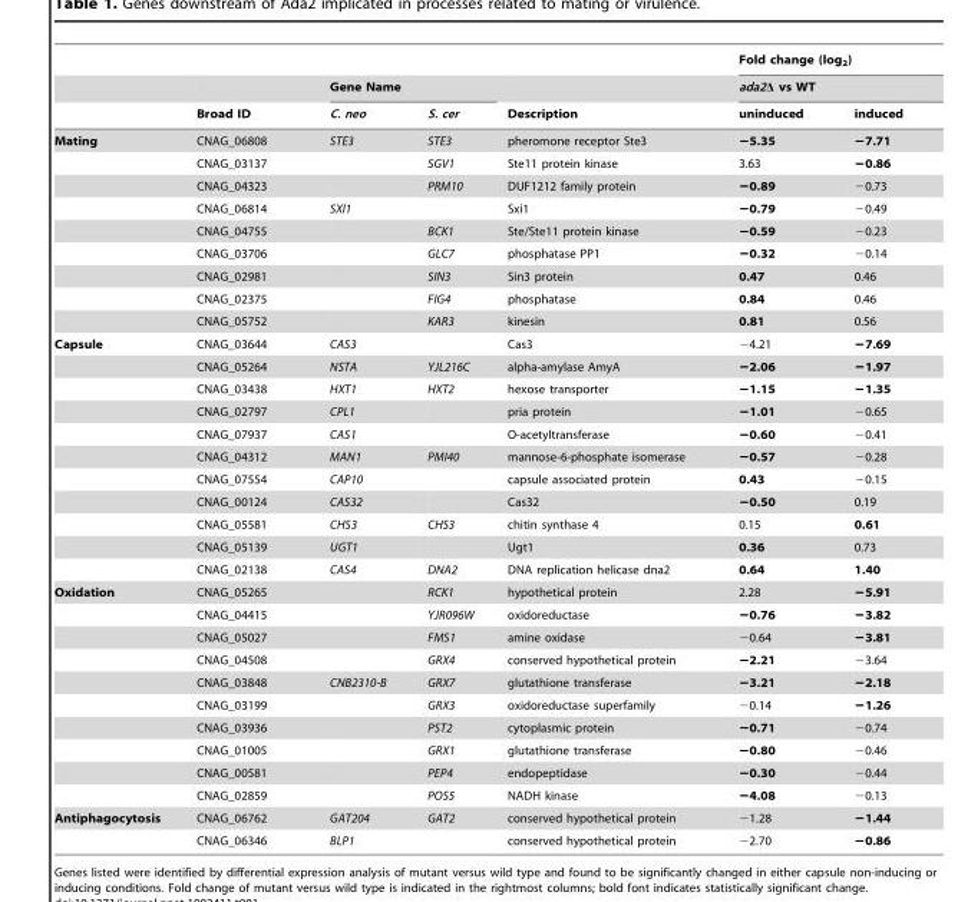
<table><thead><tr><td rowspan="3"></td><td rowspan="3">Broad ID</td><td></td><td></td><td rowspan="3">Description</td><td rowspan="2" colspan="2">Fold change (log<sub>2</sub>) ada2Δ vs WT</td></tr><tr><td colspan="2">Gene Name</td></tr><tr><td>C. neo</td><td>S. cer</td><td>uninduced</td><td>induced</td></tr></thead><tbody><tr><td rowspan="9">Mating</td><td>CNAG_06808</td><td>STE3</td><td>STE3</td><td>pheromone receptor Ste3</td><td>−5.35</td><td>−7.71</td></tr><tr><td>CNAG_03137</td><td></td><td>SGV1</td><td>Ste11 protein kinase</td><td>3.63</td><td>−0.86</td></tr><tr><td>CNAG_04323</td><td></td><td>PRM10</td><td>DUF1212 family protein</td><td>−0.89</td><td>−0.73</td></tr><tr><td>CNAG_06814</td><td>SXI1</td><td></td><td>Sxi1</td><td>−0.79</td><td>−0.49</td></tr><tr><td>CNAG_04755</td><td></td><td>BCK1</td><td>Ste/Ste11 protein kinase</td><td>−0.59</td><td>−0.23</td></tr><tr><td>CNAG_03706</td><td></td><td>GLC7</td><td>phosphatase PP1</td><td>−0.32</td><td>−0.14</td></tr><tr><td>CNAG_02981</td><td></td><td>SIN3</td><td>Sin3 protein</td><td>0.47</td><td>0.46</td></tr><tr><td>CNAG_02375</td><td></td><td>FIG4</td><td>phosphatase</td><td>0.84</td><td>0.46</td></tr><tr><td>CNAG_05752</td><td></td><td>KAR3</td><td>kinesin</td><td>0.81</td><td>0.56</td></tr><tr><td rowspan="11">Capsule</td><td>CNAG_03644</td><td>CAS3</td><td></td><td>Cas3</td><td>−4.21</td><td>−7.69</td></tr><tr><td>CNAG_05264</td><td>NSTA</td><td>YJL216C</td><td>alpha-amylase AmyA</td><td>−2.06</td><td>−1.97</td></tr><tr><td>CNAG_03438</td><td>HXT1</td><td>HXT2</td><td>hexose transporter</td><td>−1.15</td><td>−1.35</td></tr><tr><td>CNAG_02797</td><td>CPL1</td><td></td><td>pria protein</td><td>−1.01</td><td>−0.65</td></tr><tr><td>CNAG_07937</td><td>CAS1</td><td></td><td>O-acetyltransferase</td><td>−0.60</td><td>−0.41</td></tr><tr><td>CNAG_04312</td><td>MAN1</td><td>PMI40</td><td>mannose-6-phosphate isomerase</td><td>−0.57</td><td>−0.28</td></tr><tr><td>CNAG_07554</td><td>CAP10</td><td></td><td>capsule associated protein</td><td>0.43</td><td>−0.15</td></tr><tr><td>CNAG_00124</td><td>CAS32</td><td></td><td>Cas32</td><td>−0.50</td><td>0.19</td></tr><tr><td>CNAG_05581</td><td>CHS3</td><td>CHS3</td><td>chitin synthase 4</td><td>0.15</td><td>0.61</td></tr><tr><td>CNAG_05139</td><td>UGT1</td><td></td><td>Ugt1</td><td>0.36</td><td>0.73</td></tr><tr><td>CNAG_02138</td><td>CAS4</td><td>DNA2</td><td>DNA replication helicase dna2</td><td>0.64</td><td>1.40</td></tr><tr><td rowspan="10">Oxidation</td><td>CNAG_05265</td><td></td><td>RCK1</td><td>hypothetical protein</td><td>2.28</td><td>−5.91</td></tr><tr><td>CNAG_04415</td><td></td><td>YJR096W</td><td>oxidoreductase</td><td>−0.76</td><td>−3.82</td></tr><tr><td>CNAG_05027</td><td></td><td>FMS1</td><td>amine oxidase</td><td>−0.64</td><td>−3.81</td></tr><tr><td>CNAG_04508</td><td></td><td>GRX4</td><td>conserved hypothetical protein</td><td>−2.21</td><td>−3.64</td></tr><tr><td>CNAG_03848</td><td>CNB2310-B</td><td>GRX7</td><td>glutathione transferase</td><td>−3.21</td><td>−2.18</td></tr><tr><td>CNAG_03199</td><td></td><td>GRX3</td><td>oxidoreductase superfamily</td><td>−0.14</td><td>−1.26</td></tr><tr><td>CNAG_03936</td><td></td><td>PST2</td><td>cytoplasmic protein</td><td>−0.71</td><td>−0.74</td></tr><tr><td>CNAG_01005</td><td></td><td>GRX1</td><td>glutathione transferase</td><td>−0.80</td><td>−0.46</td></tr><tr><td>CNAG_00581</td><td></td><td>PEP4</td><td>endopeptidase</td><td>−0.30</td><td>−0.44</td></tr><tr><td>CNAG_02859</td><td></td><td>POS5</td><td>NADH kinase</td><td>−4.08</td><td>−0.13</td></tr><tr><td rowspan="2">Antiphagocytosis</td><td>CNAG_06762</td><td>GAT204</td><td>GAT2</td><td>conserved hypothetical protein</td><td>−1.28</td><td>−1.44</td></tr><tr><td>CNAG_06346</td><td>BLP1</td><td></td><td>conserved hypothetical protein</td><td>−2.70</td><td>−0.86</td></tr></tbody></table>